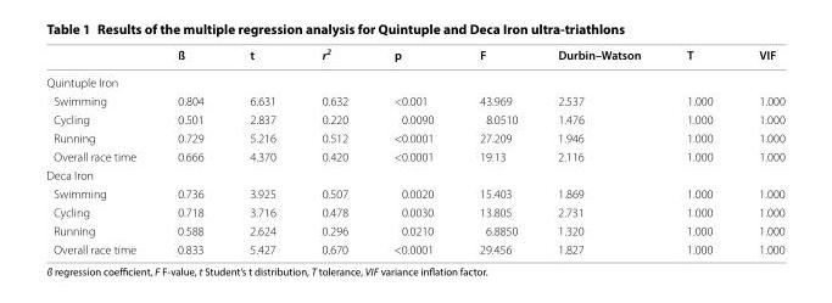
<table><thead><tr><td></td><td>ß</td><td>t</td><td>r<sup>2</sup></td><td>p</td><td>F</td><td>Durbin–Watson</td><td>T</td><td>VIF</td></tr></thead><tbody><tr><td colspan="9">Quintuple Iron</td></tr><tr><td>Swimming</td><td>0.804</td><td>6.631</td><td>0.632</td><td>&lt;0.001</td><td>43.969</td><td>2.537</td><td>1.000</td><td>1.000</td></tr><tr><td>Cycling</td><td>0.501</td><td>2.837</td><td>0.220</td><td>0.0090</td><td>8.0510</td><td>1.476</td><td>1.000</td><td>1.000</td></tr><tr><td>Running</td><td>0.729</td><td>5.216</td><td>0.512</td><td>&lt;0.0001</td><td>27.209</td><td>1.946</td><td>1.000</td><td>1.000</td></tr><tr><td>Overall race time</td><td>0.666</td><td>4.370</td><td>0.420</td><td>&lt;0.0001</td><td>19.13</td><td>2.116</td><td>1.000</td><td>1.000</td></tr><tr><td colspan="9">Deca Iron</td></tr><tr><td>Swimming</td><td>0.736</td><td>3.925</td><td>0.507</td><td>0.0020</td><td>15.403</td><td>1.869</td><td>1.000</td><td>1.000</td></tr><tr><td>Cycling</td><td>0.718</td><td>3.716</td><td>0.478</td><td>0.0030</td><td>13.805</td><td>2.731</td><td>1.000</td><td>1.000</td></tr><tr><td>Running</td><td>0.588</td><td>2.624</td><td>0.296</td><td>0.0210</td><td>6.8850</td><td>1.320</td><td>1.000</td><td>1.000</td></tr><tr><td>Overall race time</td><td>0.833</td><td>5.427</td><td>0.670</td><td>&lt;0.0001</td><td>29.456</td><td>1.827</td><td>1.000</td><td>1.000</td></tr></tbody></table>